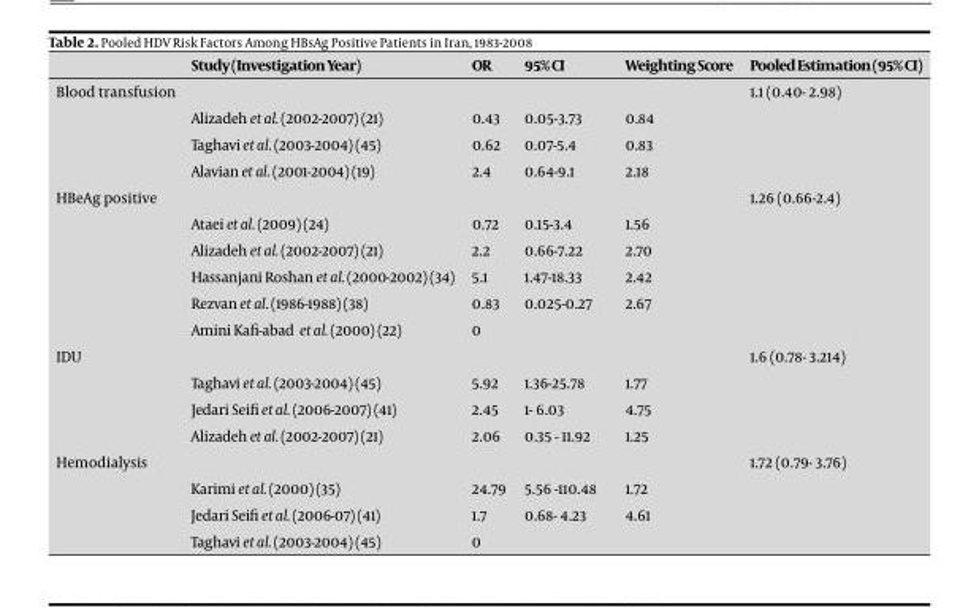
<table><thead><tr><td></td><td>Study (Investigation Year)</td><td>OR</td><td>95% CI</td><td>Weighting Score</td><td>Pooled Estimation (95% CI)</td></tr></thead><tbody><tr><td rowspan="4">Blood transfusion</td><td></td><td></td><td></td><td></td><td>1.1 (0.40- 2.98)</td></tr><tr><td>Alizadeh et al. (2002-2007) (21)</td><td>0.43</td><td>0.05-3.73</td><td>0.84</td><td></td></tr><tr><td>Taghavi et al. (2003-2004) (45)</td><td>0.62</td><td>0.07-5.4</td><td>0.83</td><td></td></tr><tr><td>Alavian et al. (2001-2004) (19)</td><td>2.4</td><td>0.64-9.1</td><td>2.18</td><td></td></tr><tr><td rowspan="6">HBeAg positive</td><td></td><td></td><td></td><td></td><td>1.26 (0.66-2.4)</td></tr><tr><td>Ataei et al. (2009) (24)</td><td>0.72</td><td>0.15-3.4</td><td>1.56</td><td></td></tr><tr><td>Alizadeh et al. (2002-2007) (21)</td><td>2.2</td><td>0.66-7.22</td><td>2.70</td><td></td></tr><tr><td>Hassanjani Roshan et al. (2000-2002) (34)</td><td>5.1</td><td>1.47-18.33</td><td>2.42</td><td></td></tr><tr><td>Rezvan et al. (1986-1988) (38)</td><td>0.83</td><td>0.025-0.27</td><td>2.67</td><td></td></tr><tr><td>Amini Kafi-abad et al. (2000) (22)</td><td>0</td><td></td><td></td><td></td></tr><tr><td rowspan="4">IDU</td><td></td><td></td><td></td><td></td><td>1.6 (0.78- 3.214)</td></tr><tr><td>Taghavi et al. (2003-2004) (45)</td><td>5.92</td><td>1.36-25.78</td><td>1.77</td><td></td></tr><tr><td>Jedari Seifi et al. (2006-2007) (41)</td><td>2.45</td><td>1- 6.03</td><td>4.75</td><td></td></tr><tr><td>Alizadeh et al. (2002-2007) (21)</td><td>2.06</td><td>0.35 - 11.92</td><td>1.25</td><td></td></tr><tr><td rowspan="4">Hemodialysis</td><td></td><td></td><td></td><td></td><td>1.72 (0.79- 3.76)</td></tr><tr><td>Karimi et al. (2000) (35)</td><td>24.79</td><td>5.56 -110.48</td><td>1.72</td><td></td></tr><tr><td>Jedari Seifi et al. (2006-07) (41)</td><td>1.7</td><td>0.68- 4.23</td><td>4.61</td><td></td></tr><tr><td>Taghavi et al. (2003-2004) (45)</td><td>0</td><td></td><td></td><td></td></tr></tbody></table>